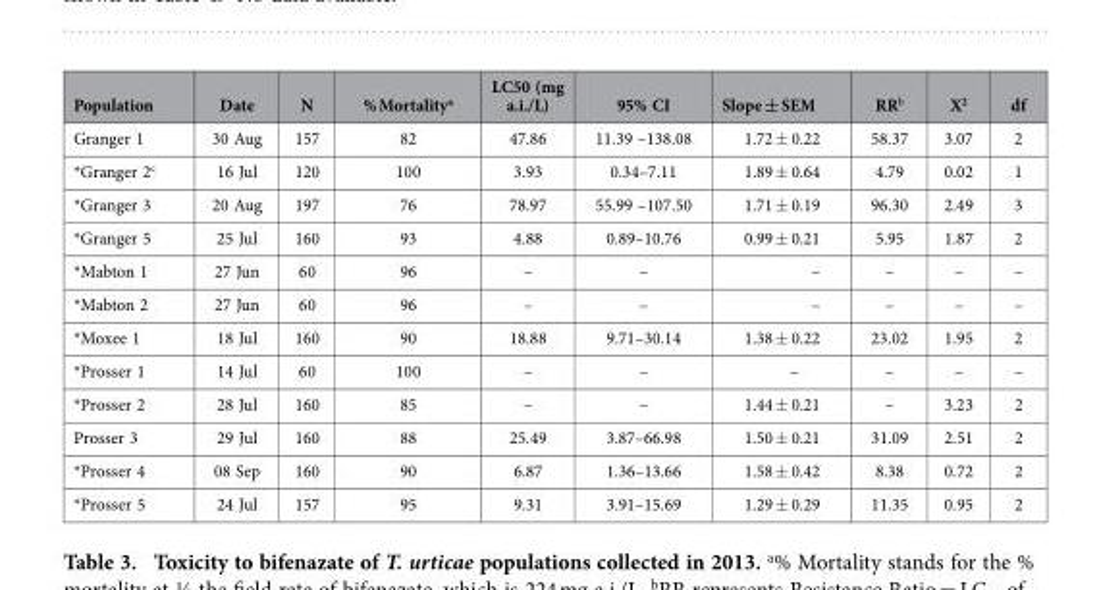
<table><thead><tr><td>Population</td><td>Date</td><td>N</td><td>% Mortality<sup>a</sup></td><td>LC50 (mg a.i./L)</td><td>95% CI</td><td>Slope ± SEM</td><td>RR<sup>b</sup></td><td>X<sup>2</sup></td><td>df</td></tr></thead><tbody><tr><td>Granger 1</td><td>30 Aug</td><td>157</td><td>82</td><td>47.86</td><td>11.39 –138.08</td><td>1.72 ± 0.22</td><td>58.37</td><td>3.07</td><td>2</td></tr><tr><td>*Granger 2<sup>c</sup></td><td>16 Jul</td><td>120</td><td>100</td><td>3.93</td><td>0.34–7.11</td><td>1.89 ± 0.64</td><td>4.79</td><td>0.02</td><td>1</td></tr><tr><td>*Granger 3</td><td>20 Aug</td><td>197</td><td>76</td><td>78.97</td><td>55.99 –107.50</td><td>1.71 ± 0.19</td><td>96.30</td><td>2.49</td><td>3</td></tr><tr><td>*Granger 5</td><td>25 Jul</td><td>160</td><td>93</td><td>4.88</td><td>0.89–10.76</td><td>0.99 ± 0.21</td><td>5.95</td><td>1.87</td><td>2</td></tr><tr><td>*Mabton 1</td><td>27 Jun</td><td>60</td><td>96</td><td>–</td><td>–</td><td>–</td><td>–</td><td>–</td><td>–</td></tr><tr><td>*Mabton 2</td><td>27 Jun</td><td>60</td><td>96</td><td>–</td><td>–</td><td>–</td><td>–</td><td>–</td><td>–</td></tr><tr><td>*Moxee 1</td><td>18 Jul</td><td>160</td><td>90</td><td>18.88</td><td>9.71–30.14</td><td>1.38 ± 0.22</td><td>23.02</td><td>1.95</td><td>2</td></tr><tr><td>*Prosser 1</td><td>14 Jul</td><td>60</td><td>100</td><td>–</td><td>–</td><td>–</td><td>–</td><td>–</td><td>–</td></tr><tr><td>*Prosser 2</td><td>28 Jul</td><td>160</td><td>85</td><td>–</td><td>–</td><td>1.44 ± 0.21</td><td>–</td><td>3.23</td><td>2</td></tr><tr><td>Prosser 3</td><td>29 Jul</td><td>160</td><td>88</td><td>25.49</td><td>3.87–66.98</td><td>1.50 ± 0.21</td><td>31.09</td><td>2.51</td><td>2</td></tr><tr><td>*Prosser 4</td><td>08 Sep</td><td>160</td><td>90</td><td>6.87</td><td>1.36–13.66</td><td>1.58 ± 0.42</td><td>8.38</td><td>0.72</td><td>2</td></tr><tr><td>*Prosser 5</td><td>24 Jul</td><td>157</td><td>95</td><td>9.31</td><td>3.91–15.69</td><td>1.29 ± 0.29</td><td>11.35</td><td>0.95</td><td>2</td></tr></tbody></table>